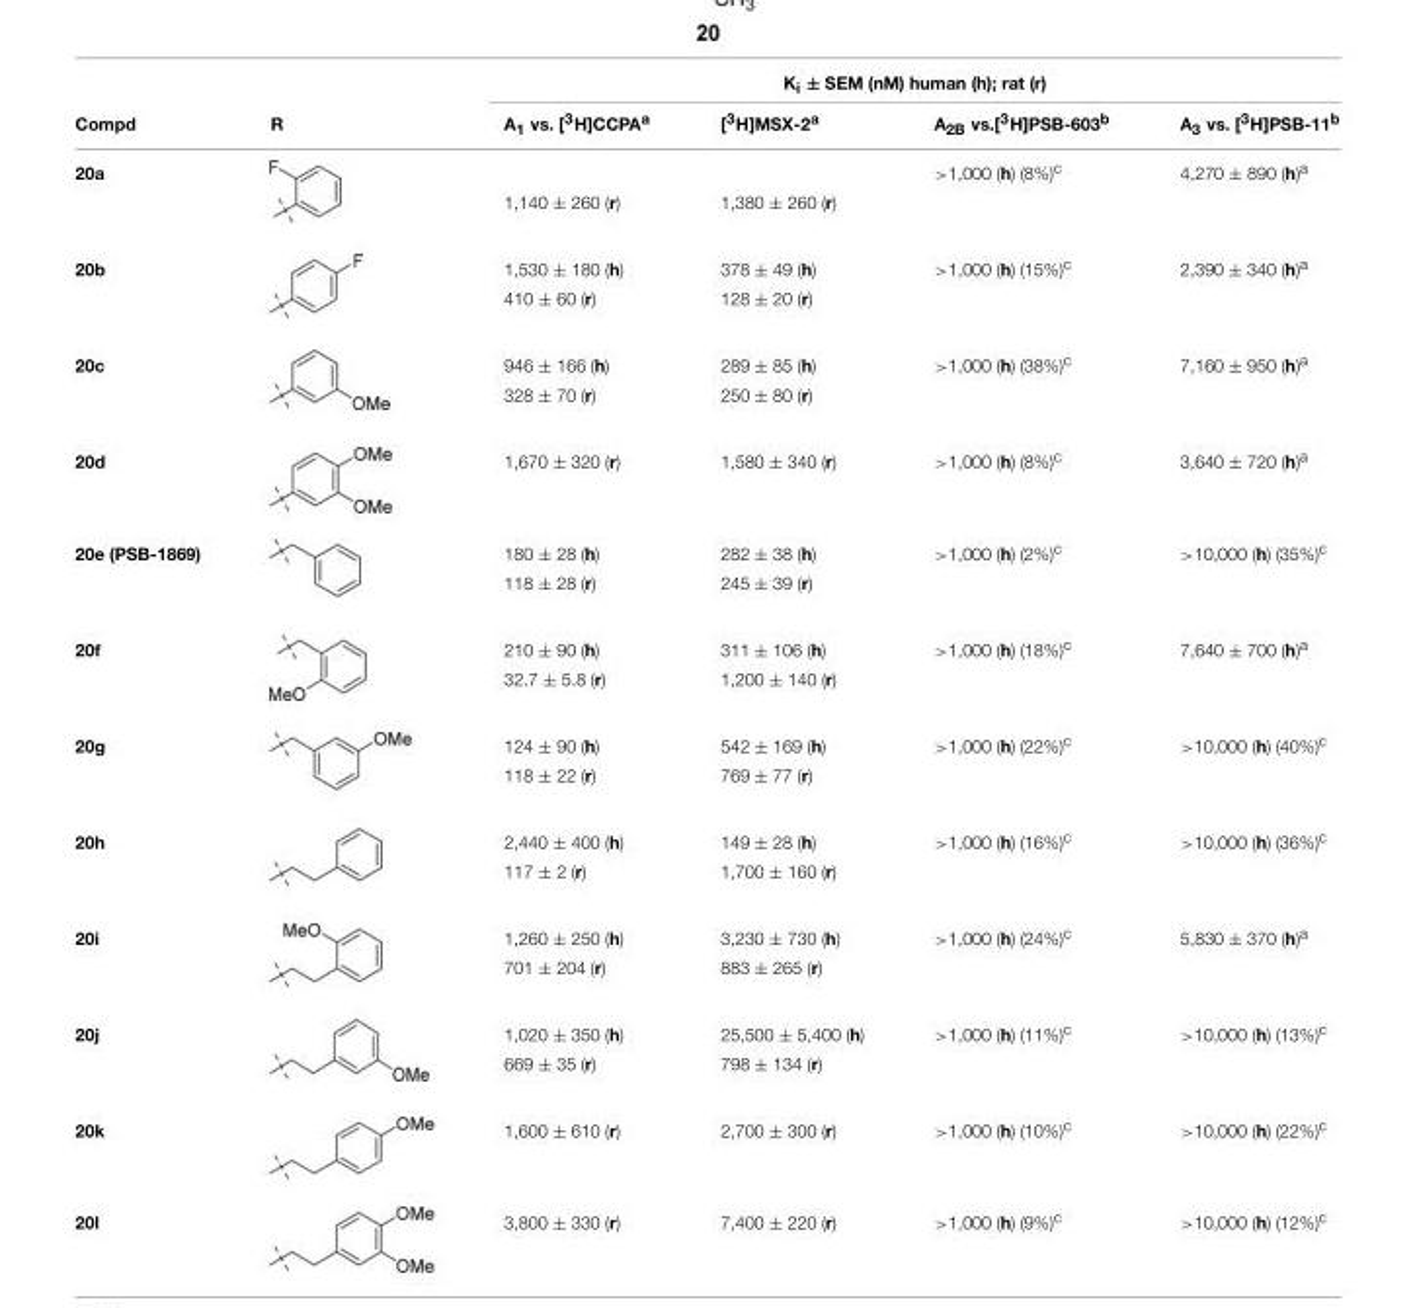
<table><thead><tr><td rowspan="2">Compd</td><td rowspan="2">R</td><td colspan="4">K<sub>i</sub> ± SEM (nM) human (h); rat (r)</td></tr><tr><td>A<sub>1</sub> vs. [<sup>3</sup>H]CCPA<sup>a</sup></td><td>[<sup>3</sup>H]MSX-2<sup>a</sup></td><td>A<sub>2B</sub> vs.[<sup>3</sup>H]PSB-603<sup>b</sup></td><td>A<sub>3</sub> vs. [<sup>3</sup>H]PSB-11<sup>b</sup></td></tr></thead><tbody><tr><td rowspan="2">20a</td><td></td><td></td><td></td><td>&gt;1,000 (h) (8%)<sup>c</sup></td><td>4,270 ± 890 (h)<sup>a</sup></td></tr><tr><td></td><td>1,140 ± 260 (r)</td><td>1,380 ± 260 (r)</td><td></td><td></td></tr><tr><td rowspan="2">20b</td><td></td><td>1,530 ± 180 (h)</td><td>378 ± 49 (h)</td><td>&gt;1,000 (h) (15%)<sup>c</sup></td><td>2,390 ± 340 (h)<sup>a</sup></td></tr><tr><td></td><td>410 ± 60 (r)</td><td>128 ± 20 (r)</td><td></td><td></td></tr><tr><td rowspan="2">20c</td><td></td><td>946 ± 166 (h)</td><td>289 ± 85 (h)</td><td>&gt;1,000 (h) (38%)<sup>c</sup></td><td>7,160 ± 950 (h)<sup>a</sup></td></tr><tr><td></td><td>328 ± 70 (r)</td><td>250 ± 80 (r)</td><td></td><td></td></tr><tr><td>20d</td><td></td><td>1,670 ± 320 (r)</td><td>1,580 ± 340 (r)</td><td>&gt;1,000 (h) (8%)<sup>c</sup></td><td>3,640 ± 720 (h)<sup>a</sup></td></tr><tr><td rowspan="2">20e (PSB-1869)</td><td></td><td>180 ± 28 (h)</td><td>282 ± 38 (h)</td><td>&gt;1,000 (h) (2%)<sup>c</sup></td><td>&gt;10,000 (h) (35%)<sup>c</sup></td></tr><tr><td></td><td>118 ± 28 (r)</td><td>245 ± 39 (r)</td><td></td><td></td></tr><tr><td rowspan="2">20f</td><td></td><td>210 ± 90 (h)</td><td>311 ± 106 (h)</td><td>&gt;1,000 (h) (18%)<sup>c</sup></td><td>7,640 ± 700 (h)<sup>a</sup></td></tr><tr><td></td><td>32.7 ± 5.8 (r)</td><td>1,200 ± 140 (r)</td><td></td><td></td></tr><tr><td rowspan="2">20g</td><td></td><td>124 ± 90 (h)</td><td>542 ± 169 (h)</td><td>&gt;1,000 (h) (22%)<sup>c</sup></td><td>&gt;10,000 (h) (40%)<sup>c</sup></td></tr><tr><td></td><td>118 ± 22 (r)</td><td>769 ± 77 (r)</td><td></td><td></td></tr><tr><td rowspan="2">20h</td><td></td><td>2,440 ± 400 (h)</td><td>149 ± 28 (h)</td><td>&gt;1,000 (h) (16%)<sup>c</sup></td><td>&gt;10,000 (h) (36%)<sup>c</sup></td></tr><tr><td></td><td>117 ± 2 (r)</td><td>1,700 ± 160 (r)</td><td></td><td></td></tr><tr><td rowspan="2">20i</td><td></td><td>1,260 ± 250 (h)</td><td>3,230 ± 730 (h)</td><td>&gt;1,000 (h) (24%)<sup>c</sup></td><td>5,830 ± 370 (h)<sup>a</sup></td></tr><tr><td></td><td>701 ± 204 (r)</td><td>883 ± 265 (r)</td><td></td><td></td></tr><tr><td rowspan="2">20j</td><td></td><td>1,020 ± 350 (h)</td><td>25,500 ± 5,400 (h)</td><td>&gt;1,000 (h) (11%)<sup>c</sup></td><td>&gt;10,000 (h) (13%)<sup>c</sup></td></tr><tr><td></td><td>669 ± 35 (r)</td><td>798 ± 134 (r)</td><td></td><td></td></tr><tr><td>20k</td><td></td><td>1,600 ± 610 (r)</td><td>2,700 ± 300 (r)</td><td>&gt;1,000 (h) (10%)<sup>c</sup></td><td>&gt;10,000 (h) (22%)<sup>c</sup></td></tr><tr><td>20l</td><td></td><td>3,800 ± 330 (r)</td><td>7,400 ± 220 (r)</td><td>&gt;1,000 (h) (9%)<sup>c</sup></td><td>&gt;10,000 (h) (12%)<sup>c</sup></td></tr></tbody></table>